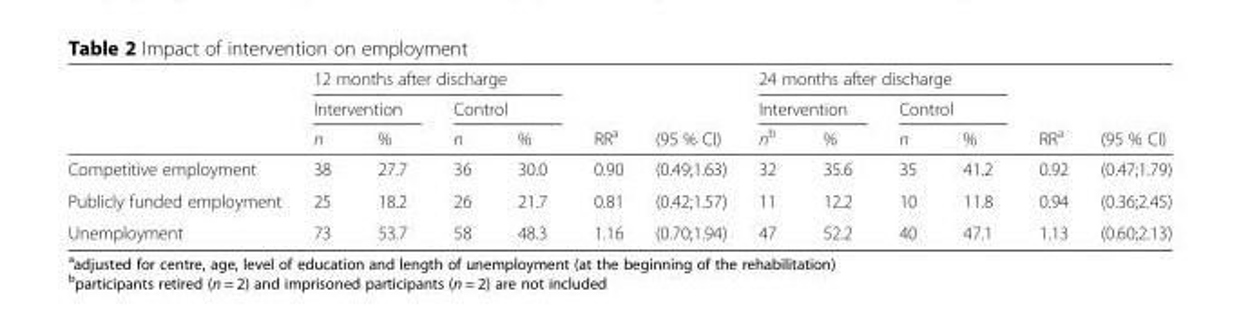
<table><thead><tr><td rowspan="3"></td><td colspan="4">12 months after discharge</td><td rowspan="3">RR<sup>a</sup></td><td rowspan="3">(95 % CI)</td><td colspan="4">24 months after discharge</td><td rowspan="3">RR<sup>a</sup></td><td rowspan="3">(95 % CI)</td></tr><tr><td colspan="2">Intervention</td><td colspan="2">Control</td><td colspan="2">Intervention</td><td colspan="2">Control</td></tr><tr><td>n</td><td>%</td><td>n</td><td>%</td><td>n<sup>b</sup></td><td>%</td><td>n</td><td>%</td></tr></thead><tbody><tr><td>Competitive employment</td><td>38</td><td>27.7</td><td>36</td><td>30.0</td><td>0.90</td><td>(0.49;1.63)</td><td>32</td><td>35.6</td><td>35</td><td>41.2</td><td>0.92</td><td>(0.47;1.79)</td></tr><tr><td>Publicly funded employment</td><td>25</td><td>18.2</td><td>26</td><td>21.7</td><td>0.81</td><td>(0.42;1.57)</td><td>11</td><td>12.2</td><td>10</td><td>11.8</td><td>0.94</td><td>(0.36;2.45)</td></tr><tr><td>Unemployment</td><td>73</td><td>53.7</td><td>58</td><td>48.3</td><td>1.16</td><td>(0.70;1.94)</td><td>47</td><td>52.2</td><td>40</td><td>47.1</td><td>1.13</td><td>(0.60;2.13)</td></tr></tbody></table>